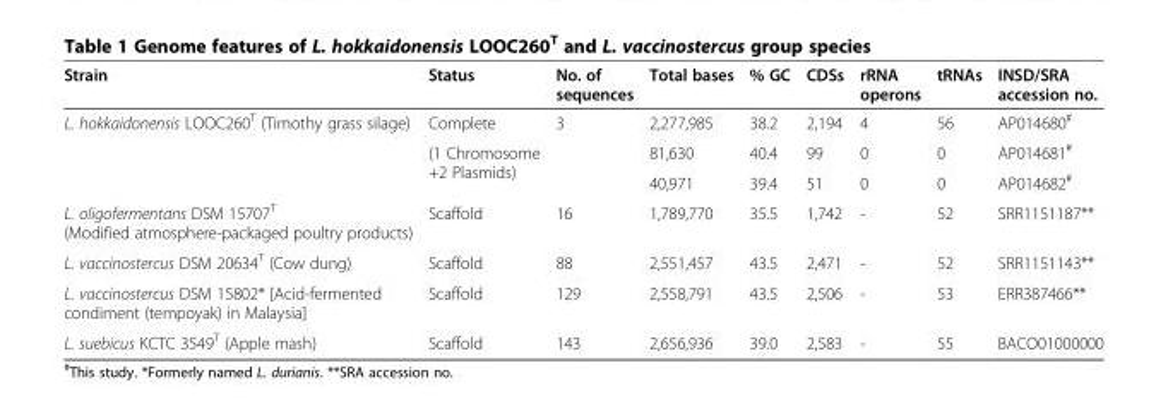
<table><thead><tr><td>Strain</td><td>Status</td><td>No. of sequences</td><td>Total bases</td><td>% GC</td><td>CDSs</td><td>rRNA operons</td><td>tRNAs</td><td>INSD/SRA accession no.</td></tr></thead><tbody><tr><td rowspan="3">L. hokkaidonensis LOOC260<sup>T</sup> (Timothy grass silage)</td><td>Complete</td><td rowspan="3">3</td><td>2,277,985</td><td>38.2</td><td>2,194</td><td>4</td><td>56</td><td>AP014680<sup>#</sup></td></tr><tr><td rowspan="2">(1 Chromosome +2 Plasmids)</td><td>81,630</td><td>40.4</td><td>99</td><td>0</td><td>0</td><td>AP014681<sup>#</sup></td></tr><tr><td>40,971</td><td>39.4</td><td>51</td><td>0</td><td>0</td><td>AP014682<sup>#</sup></td></tr><tr><td>L. oligofermentans DSM 15707<sup>T</sup> (Modified atmosphere-packaged poultry products)</td><td>Scaffold</td><td>16</td><td>1,789,770</td><td>35.5</td><td>1,742</td><td>-</td><td>52</td><td>SRR1151187**</td></tr><tr><td>L. vaccinostercus DSM 20634<sup>T</sup> (Cow dung)</td><td>Scaffold</td><td>88</td><td>2,551,457</td><td>43.5</td><td>2,471</td><td>-</td><td>52</td><td>SRR1151143**</td></tr><tr><td>L. vaccinostercus DSM 15802* [Acid-fermented condiment (tempoyak) in Malaysia]</td><td>Scaffold</td><td>129</td><td>2,558,791</td><td>43.5</td><td>2,506</td><td>-</td><td>53</td><td>ERR387466**</td></tr><tr><td>L. suebicus KCTC 3549<sup>T</sup> (Apple mash)</td><td>Scaffold</td><td>143</td><td>2,656,936</td><td>39.0</td><td>2,583</td><td>-</td><td>55</td><td>BACO01000000</td></tr></tbody></table>